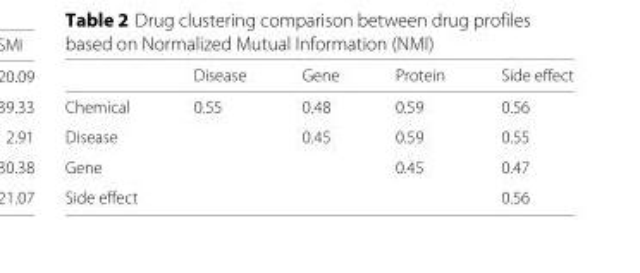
<table><thead><tr><td></td><td>Disease</td><td>Gene</td><td>Protein</td><td>Side effect</td></tr></thead><tbody><tr><td>Chemical</td><td>0.55</td><td>0.48</td><td>0.59</td><td>0.56</td></tr><tr><td>Disease</td><td></td><td>0.45</td><td>0.59</td><td>0.55</td></tr><tr><td>Gene</td><td></td><td></td><td>0.45</td><td>0.47</td></tr><tr><td>Side effect</td><td></td><td></td><td></td><td>0.56</td></tr></tbody></table>